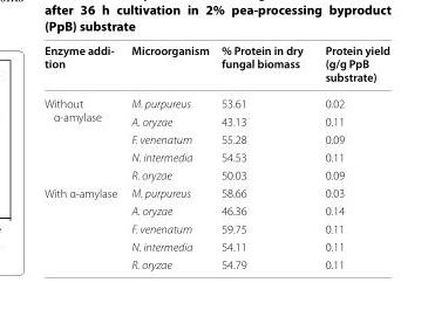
<table><thead><tr><td>Enzyme addi‑ tion</td><td>Microorganism</td><td>% Protein in dry fungal biomass</td><td>Protein yield (g/g PpB substrate)</td></tr></thead><tbody><tr><td rowspan="5">Without α-amylase</td><td>M. purpureus</td><td>53.61</td><td>0.02</td></tr><tr><td>A. oryzae</td><td>43.13</td><td>0.11</td></tr><tr><td>F. venenatum</td><td>55.28</td><td>0.09</td></tr><tr><td>N. intermedia</td><td>54.53</td><td>0.11</td></tr><tr><td>R. oryzae</td><td>50.03</td><td>0.09</td></tr><tr><td rowspan="5">With α-amylase</td><td>M. purpureus</td><td>58.66</td><td>0.03</td></tr><tr><td>A. oryzae</td><td>46.36</td><td>0.14</td></tr><tr><td>F. venenatum</td><td>59.75</td><td>0.11</td></tr><tr><td>N. intermedia</td><td>54.11</td><td>0.11</td></tr><tr><td>R. oryzae</td><td>54.79</td><td>0.11</td></tr></tbody></table>